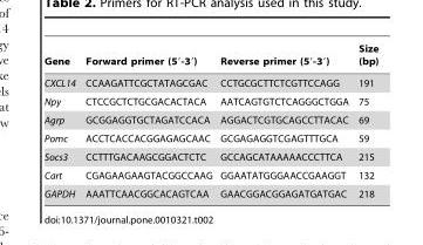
<table><thead><tr><td>Gene</td><td>Forward primer (5′-3′)</td><td>Reverse primer (5′-3′)</td><td>Size (bp)</td></tr></thead><tbody><tr><td>CXCL14</td><td>CCAAGATTCGCTATAGCGAC</td><td>CCTGCGCTTCTCGTTCCAGG</td><td>191</td></tr><tr><td>Npy</td><td>CTCCGCTCTGCGACACTACA</td><td>AATCAGTGTCTCAGGGCTGGA</td><td>75</td></tr><tr><td>Agrp</td><td>GCGGAGGTGCTAGATCCACA</td><td>AGGACTCGTGCAGCCTTACAC</td><td>69</td></tr><tr><td>Pomc</td><td>ACCTCACCACGGAGAGCAAC</td><td>GCGAGAGGTCGAGTTTGCA</td><td>59</td></tr><tr><td>Socs3</td><td>CCTTTGACAAGCGGACTCTC</td><td>GCCAGCATAAAAACCCTTCA</td><td>215</td></tr><tr><td>Cart</td><td>CGAGAAGAAGTACGGCCAAG</td><td>GGAATATGGGAACCGAAGGT</td><td>132</td></tr><tr><td>GAPDH</td><td>AAATTCAACGGCACAGTCAA</td><td>GAACGGACGGAGATGATGAC</td><td>218</td></tr></tbody></table>